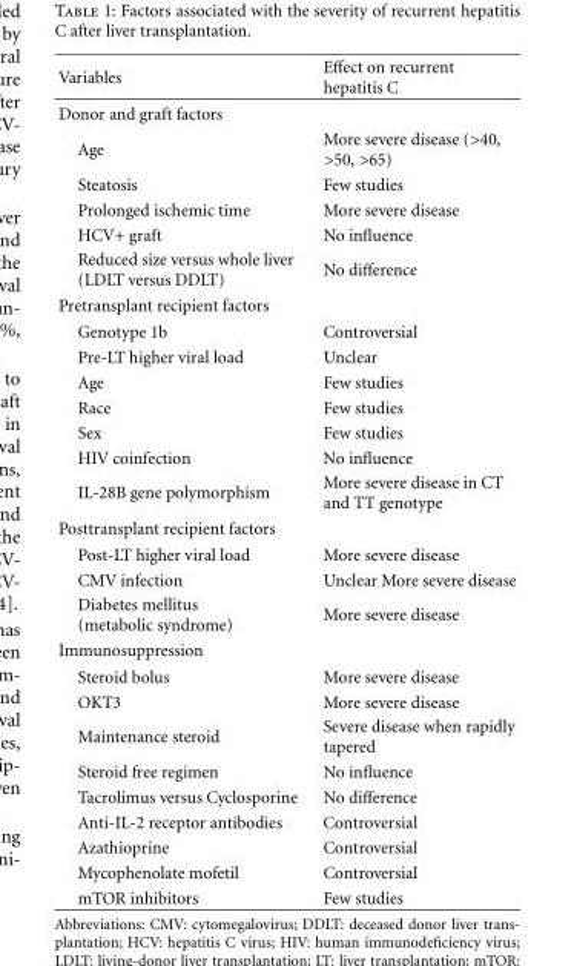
<table><thead><tr><td>Variables</td><td>Effect on recurrent hepatitis C</td></tr></thead><tbody><tr><td colspan="2">Donor and graft factors</td></tr><tr><td>Age</td><td>More severe disease (&gt;40, &gt;50, &gt;65)</td></tr><tr><td>Steatosis</td><td>Few studies</td></tr><tr><td>Prolonged ischemic time</td><td>More severe disease</td></tr><tr><td>HCV+ graft</td><td>No influence</td></tr><tr><td>Reduced size versus whole liver (LDLT versus DDLT)</td><td>No difference</td></tr><tr><td colspan="2">Pretransplant recipient factors</td></tr><tr><td>Genotype 1b</td><td>Controversial</td></tr><tr><td>Pre-LT higher viral load</td><td>Unclear</td></tr><tr><td>Age</td><td>Few studies</td></tr><tr><td>Race</td><td>Few studies</td></tr><tr><td>Sex</td><td>Few studies</td></tr><tr><td>HIV coinfection</td><td>No influence</td></tr><tr><td>IL-28B gene polymorphism</td><td>More severe disease in CT and TT genotype</td></tr><tr><td colspan="2">Posttransplant recipient factors</td></tr><tr><td>Post-LT higher viral load</td><td>More severe disease</td></tr><tr><td>CMV infection</td><td>Unclear More severe disease</td></tr><tr><td>Diabetes mellitus (metabolic syndrome)</td><td>More severe disease</td></tr><tr><td colspan="2">Immunosuppression</td></tr><tr><td>Steroid bolus</td><td>More severe disease</td></tr><tr><td>OKT3</td><td>More severe disease</td></tr><tr><td>Maintenance steroid</td><td>Severe disease when rapidly tapered</td></tr><tr><td>Steroid free regimen</td><td>No influence</td></tr><tr><td>Tacrolimus versus Cyclosporine</td><td>No difference</td></tr><tr><td>Anti-IL-2 receptor antibodies</td><td>Controversial</td></tr><tr><td>Azathioprine</td><td>Controversial</td></tr><tr><td>Mycophenolate mofetil</td><td>Controversial</td></tr><tr><td>mTOR inhibitors</td><td>Few studies</td></tr></tbody></table>